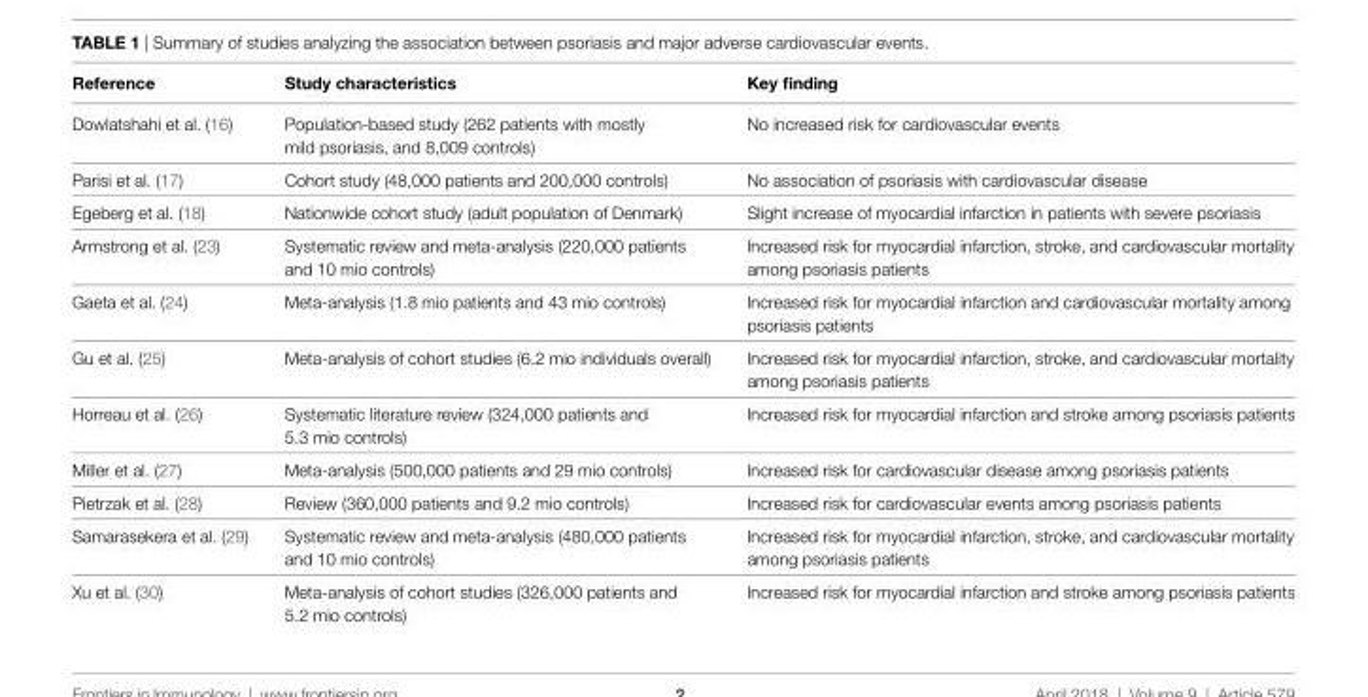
<table><thead><tr><td>Reference</td><td>Study characteristics</td><td>Key finding</td></tr></thead><tbody><tr><td>Dowlatshahi et al. (16)</td><td>Population-based study (262 patients with mostly mild psoriasis, and 8,009 controls)</td><td>No increased risk for cardiovascular events</td></tr><tr><td>Parisi et al. (17)</td><td>Cohort study (48,000 patients and 200,000 controls)</td><td>No association of psoriasis with cardiovascular disease</td></tr><tr><td>Egeberg et al. (18)</td><td>Nationwide cohort study (adult population of Denmark)</td><td>Slight increase of myocardial infarction in patients with severe psoriasis</td></tr><tr><td>Armstrong et al. (23)</td><td>Systematic review and meta-analysis (220,000 patients and 10 mio controls)</td><td>Increased risk for myocardial infarction, stroke, and cardiovascular mortality among psoriasis patients</td></tr><tr><td>Gaeta et al. (24)</td><td>Meta-analysis (1.8 mio patients and 43 mio controls)</td><td>Increased risk for myocardial infarction and cardiovascular mortality among psoriasis patients</td></tr><tr><td>Gu et al. (25)</td><td>Meta-analysis of cohort studies (6.2 mio individuals overall)</td><td>Increased risk for myocardial infarction, stroke, and cardiovascular mortality among psoriasis patients</td></tr><tr><td>Horreau et al. (26)</td><td>Systematic literature review (324,000 patients and 5.3 mio controls)</td><td>Increased risk for myocardial infarction and stroke among psoriasis patients</td></tr><tr><td>Miller et al. (27)</td><td>Meta-analysis (500,000 patients and 29 mio controls)</td><td>Increased risk for cardiovascular disease among psoriasis patients</td></tr><tr><td>Pietrzak et al. (28)</td><td>Review (360,000 patients and 9.2 mio controls)</td><td>Increased risk for cardiovascular events among psoriasis patients</td></tr><tr><td>Samarasekera et al. (29)</td><td>Systematic review and meta-analysis (480,000 patients and 10 mio controls)</td><td>Increased risk for myocardial infarction, stroke, and cardiovascular mortality among psoriasis patients</td></tr><tr><td>Xu et al. (30)</td><td>Meta-analysis of cohort studies (326,000 patients and 5.2 mio controls)</td><td>Increased risk for myocardial infarction and stroke among psoriasis patients</td></tr></tbody></table>